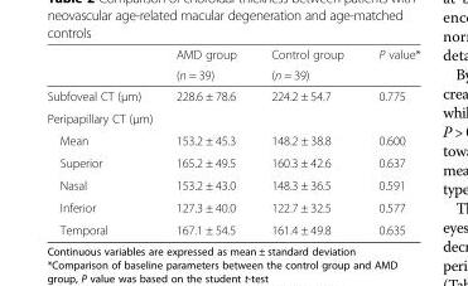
<table><thead><tr><td rowspan="2"></td><td rowspan="2">AMD group (n = 39)</td><td rowspan="2">Control group (n = 39)</td><td rowspan="2">P value*</td></tr><tr></tr></thead><tbody><tr><td>Subfoveal CT (μm)</td><td>228.6 ± 78.6</td><td>224.2 ± 54.7</td><td>0.775</td></tr><tr><td colspan="4">Peripapillary CT (μm)</td></tr><tr><td>Mean</td><td>153.2 ± 45.3</td><td>148.2 ± 38.8</td><td>0.600</td></tr><tr><td>Superior</td><td>165.2 ± 49.5</td><td>160.3 ± 42.6</td><td>0.637</td></tr><tr><td>Nasal</td><td>153.2 ± 43.0</td><td>148.3 ± 36.5</td><td>0.591</td></tr><tr><td>Inferior</td><td>127.3 ± 40.0</td><td>122.7 ± 32.5</td><td>0.577</td></tr><tr><td>Temporal</td><td>167.1 ± 54.5</td><td>161.4 ± 49.8</td><td>0.635</td></tr></tbody></table>